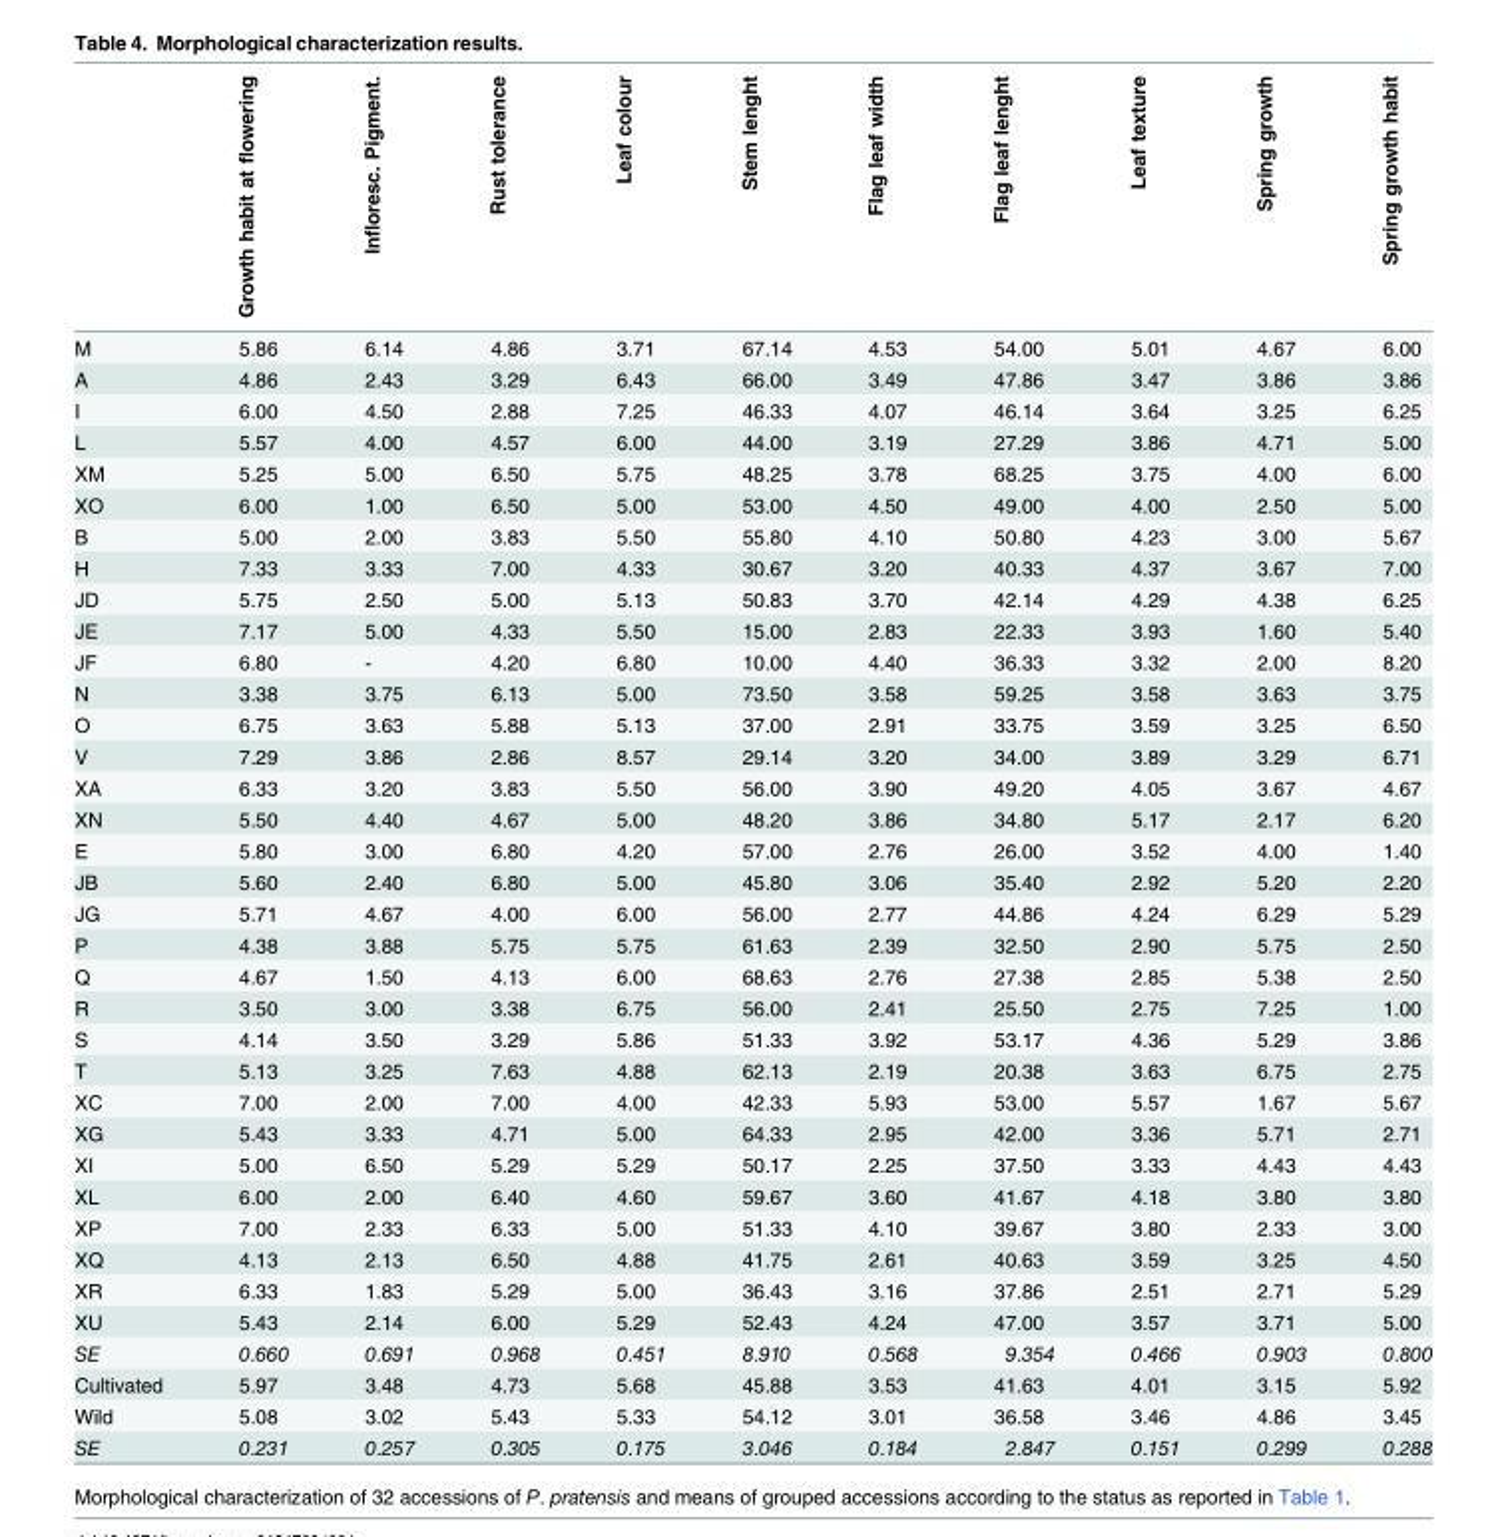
<table><thead><tr><td></td><td>Growth habit at flowering</td><td>Infloresc. Pigment.</td><td>Rust tolerance</td><td>Leaf colour</td><td>Stem lenght</td><td>Flag leaf width</td><td>Flag leaf lenght</td><td>Leaf texture</td><td>Spring growth</td><td>Spring growth habit</td></tr></thead><tbody><tr><td>M</td><td>5.86</td><td>6.14</td><td>4.86</td><td>3.71</td><td>67.14</td><td>4.53</td><td>54.00</td><td>5.01</td><td>4.67</td><td>6.00</td></tr><tr><td>A</td><td>4.86</td><td>2.43</td><td>3.29</td><td>6.43</td><td>66.00</td><td>3.49</td><td>47.86</td><td>3.47</td><td>3.86</td><td>3.86</td></tr><tr><td>I</td><td>6.00</td><td>4.50</td><td>2.88</td><td>7.25</td><td>46.33</td><td>4.07</td><td>46.14</td><td>3.64</td><td>3.25</td><td>6.25</td></tr><tr><td>L</td><td>5.57</td><td>4.00</td><td>4.57</td><td>6.00</td><td>44.00</td><td>3.19</td><td>27.29</td><td>3.86</td><td>4.71</td><td>5.00</td></tr><tr><td>XM</td><td>5.25</td><td>5.00</td><td>6.50</td><td>5.75</td><td>48.25</td><td>3.78</td><td>68.25</td><td>3.75</td><td>4.00</td><td>6.00</td></tr><tr><td>XO</td><td>6.00</td><td>1.00</td><td>6.50</td><td>5.00</td><td>53.00</td><td>4.50</td><td>49.00</td><td>4.00</td><td>2.50</td><td>5.00</td></tr><tr><td>B</td><td>5.00</td><td>2.00</td><td>3.83</td><td>5.50</td><td>55.80</td><td>4.10</td><td>50.80</td><td>4.23</td><td>3.00</td><td>5.67</td></tr><tr><td>H</td><td>7.33</td><td>3.33</td><td>7.00</td><td>4.33</td><td>30.67</td><td>3.20</td><td>40.33</td><td>4.37</td><td>3.67</td><td>7.00</td></tr><tr><td>JD</td><td>5.75</td><td>2.50</td><td>5.00</td><td>5.13</td><td>50.83</td><td>3.70</td><td>42.14</td><td>4.29</td><td>4.38</td><td>6.25</td></tr><tr><td>JE</td><td>7.17</td><td>5.00</td><td>4.33</td><td>5.50</td><td>15.00</td><td>2.83</td><td>22.33</td><td>3.93</td><td>1.60</td><td>5.40</td></tr><tr><td>JF</td><td>6.80</td><td>-</td><td>4.20</td><td>6.80</td><td>10.00</td><td>4.40</td><td>36.33</td><td>3.32</td><td>2.00</td><td>8.20</td></tr><tr><td>N</td><td>3.38</td><td>3.75</td><td>6.13</td><td>5.00</td><td>73.50</td><td>3.58</td><td>59.25</td><td>3.58</td><td>3.63</td><td>3.75</td></tr><tr><td>O</td><td>6.75</td><td>3.63</td><td>5.88</td><td>5.13</td><td>37.00</td><td>2.91</td><td>33.75</td><td>3.59</td><td>3.25</td><td>6.50</td></tr><tr><td>V</td><td>7.29</td><td>3.86</td><td>2.86</td><td>8.57</td><td>29.14</td><td>3.20</td><td>34.00</td><td>3.89</td><td>3.29</td><td>6.71</td></tr><tr><td>XA</td><td>6.33</td><td>3.20</td><td>3.83</td><td>5.50</td><td>56.00</td><td>3.90</td><td>49.20</td><td>4.05</td><td>3.67</td><td>4.67</td></tr><tr><td>XN</td><td>5.50</td><td>4.40</td><td>4.67</td><td>5.00</td><td>48.20</td><td>3.86</td><td>34.80</td><td>5.17</td><td>2.17</td><td>6.20</td></tr><tr><td>E</td><td>5.80</td><td>3.00</td><td>6.80</td><td>4.20</td><td>57.00</td><td>2.76</td><td>26.00</td><td>3.52</td><td>4.00</td><td>1.40</td></tr><tr><td>JB</td><td>5.60</td><td>2.40</td><td>6.80</td><td>5.00</td><td>45.80</td><td>3.06</td><td>35.40</td><td>2.92</td><td>5.20</td><td>2.20</td></tr><tr><td>JG</td><td>5.71</td><td>4.67</td><td>4.00</td><td>6.00</td><td>56.00</td><td>2.77</td><td>44.86</td><td>4.24</td><td>6.29</td><td>5.29</td></tr><tr><td>P</td><td>4.38</td><td>3.88</td><td>5.75</td><td>5.75</td><td>61.63</td><td>2.39</td><td>32.50</td><td>2.90</td><td>5.75</td><td>2.50</td></tr><tr><td>Q</td><td>4.67</td><td>1.50</td><td>4.13</td><td>6.00</td><td>68.63</td><td>2.76</td><td>27.38</td><td>2.85</td><td>5.38</td><td>2.50</td></tr><tr><td>R</td><td>3.50</td><td>3.00</td><td>3.38</td><td>6.75</td><td>56.00</td><td>2.41</td><td>25.50</td><td>2.75</td><td>7.25</td><td>1.00</td></tr><tr><td>S</td><td>4.14</td><td>3.50</td><td>3.29</td><td>5.86</td><td>51.33</td><td>3.92</td><td>53.17</td><td>4.36</td><td>5.29</td><td>3.86</td></tr><tr><td>T</td><td>5.13</td><td>3.25</td><td>7.63</td><td>4.88</td><td>62.13</td><td>2.19</td><td>20.38</td><td>3.63</td><td>6.75</td><td>2.75</td></tr><tr><td>XC</td><td>7.00</td><td>2.00</td><td>7.00</td><td>4.00</td><td>42.33</td><td>5.93</td><td>53.00</td><td>5.57</td><td>1.67</td><td>5.67</td></tr><tr><td>XG</td><td>5.43</td><td>3.33</td><td>4.71</td><td>5.00</td><td>64.33</td><td>2.95</td><td>42.00</td><td>3.36</td><td>5.71</td><td>2.71</td></tr><tr><td>XI</td><td>5.00</td><td>6.50</td><td>5.29</td><td>5.29</td><td>50.17</td><td>2.25</td><td>37.50</td><td>3.33</td><td>4.43</td><td>4.43</td></tr><tr><td>XL</td><td>6.00</td><td>2.00</td><td>6.40</td><td>4.60</td><td>59.67</td><td>3.60</td><td>41.67</td><td>4.18</td><td>3.80</td><td>3.80</td></tr><tr><td>XP</td><td>7.00</td><td>2.33</td><td>6.33</td><td>5.00</td><td>51.33</td><td>4.10</td><td>39.67</td><td>3.80</td><td>2.33</td><td>3.00</td></tr><tr><td>XQ</td><td>4.13</td><td>2.13</td><td>6.50</td><td>4.88</td><td>41.75</td><td>2.61</td><td>40.63</td><td>3.59</td><td>3.25</td><td>4.50</td></tr><tr><td>XR</td><td>6.33</td><td>1.83</td><td>5.29</td><td>5.00</td><td>36.43</td><td>3.16</td><td>37.86</td><td>2.51</td><td>2.71</td><td>5.29</td></tr><tr><td>XU</td><td>5.43</td><td>2.14</td><td>6.00</td><td>5.29</td><td>52.43</td><td>4.24</td><td>47.00</td><td>3.57</td><td>3.71</td><td>5.00</td></tr><tr><td>SE</td><td>0.660</td><td>0.691</td><td>0.968</td><td>0.451</td><td>8.910</td><td>0.568</td><td>9.354</td><td>0.466</td><td>0.903</td><td>0.800</td></tr><tr><td>Cultivated</td><td>5.97</td><td>3.48</td><td>4.73</td><td>5.68</td><td>45.88</td><td>3.53</td><td>41.63</td><td>4.01</td><td>3.15</td><td>5.92</td></tr><tr><td>Wild</td><td>5.08</td><td>3.02</td><td>5.43</td><td>5.33</td><td>54.12</td><td>3.01</td><td>36.58</td><td>3.46</td><td>4.86</td><td>3.45</td></tr><tr><td>SE</td><td>0.231</td><td>0.257</td><td>0.305</td><td>0.175</td><td>3.046</td><td>0.184</td><td>2.847</td><td>0.151</td><td>0.299</td><td>0.288</td></tr></tbody></table>